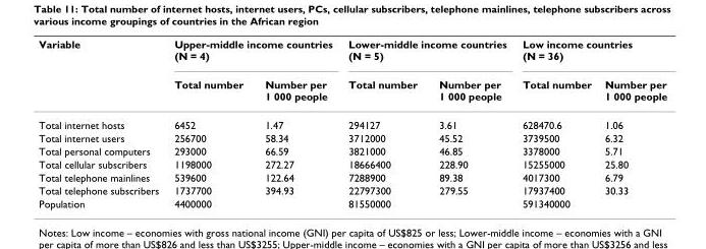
<table><thead><tr><td rowspan="2">Variable</td><td colspan="2">Upper-middle income countries (N = 4)</td><td colspan="2">Lower-middle income countries (N = 5)</td><td colspan="2">Low income countries (N = 36)</td></tr><tr><td>Total number</td><td>Number per 1 000 people</td><td>Total number</td><td>Number per 1 000 people</td><td>Total number</td><td>Number per 1 000 people</td></tr></thead><tbody><tr><td>Total internet hosts</td><td>6452</td><td>1.47</td><td>294127</td><td>3.61</td><td>628470.6</td><td>1.06</td></tr><tr><td>Total internet users</td><td>256700</td><td>58.34</td><td>3712000</td><td>45.52</td><td>3739500</td><td>6.32</td></tr><tr><td>Total personal computers</td><td>293000</td><td>66.59</td><td>3821000</td><td>46.85</td><td>3378000</td><td>5.71</td></tr><tr><td>Total cellular subscribers</td><td>1198000</td><td>272.27</td><td>18666400</td><td>228.90</td><td>15255000</td><td>25.80</td></tr><tr><td>Total telephone mainlines</td><td>539600</td><td>122.64</td><td>7288900</td><td>89.38</td><td>4017300</td><td>6.79</td></tr><tr><td>Total telephone subscribers</td><td>1737700</td><td>394.93</td><td>22797300</td><td>279.55</td><td>17937400</td><td>30.33</td></tr><tr><td>Population</td><td>4400000</td><td></td><td>81550000</td><td></td><td>591340000</td><td></td></tr></tbody></table>